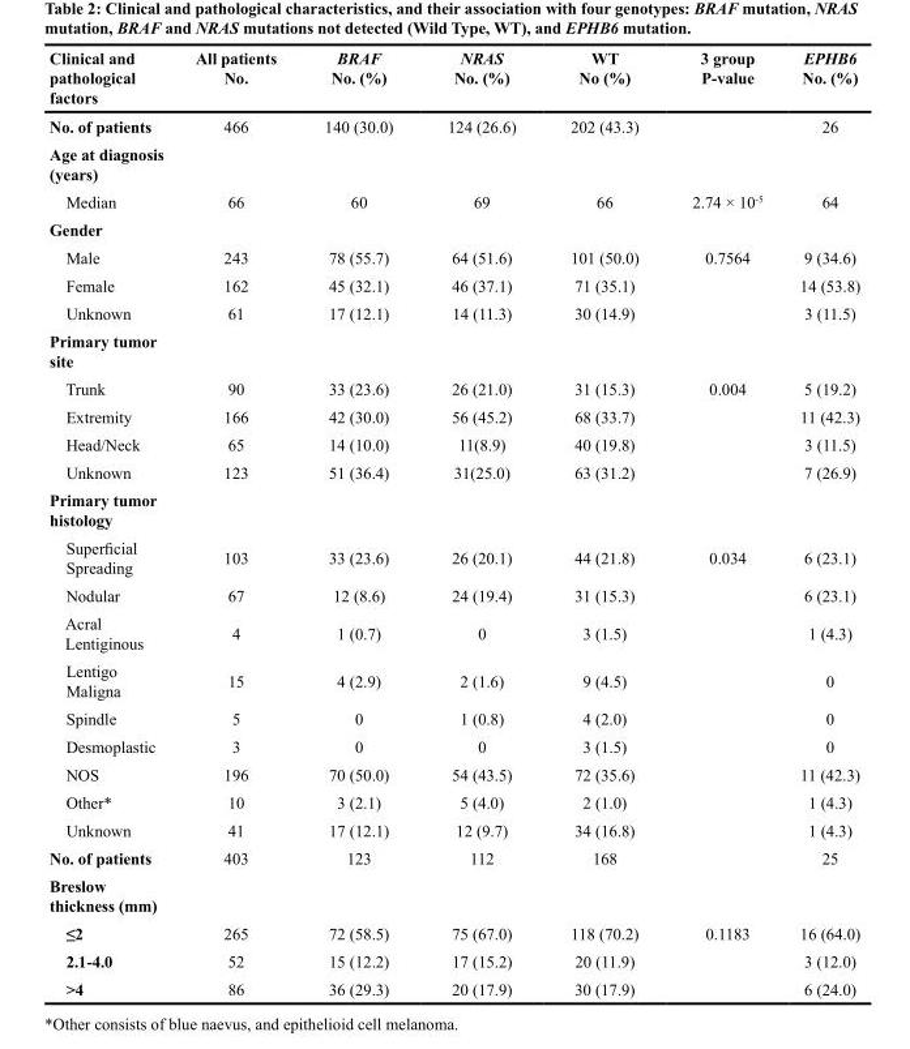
<table><thead><tr><td>Clinical and pathological factors</td><td>All patients No.</td><td>BRAF No. (%)</td><td>NRAS No. (%)</td><td>WT No (%)</td><td>3 group P-value</td><td>EPHB6 No. (%)</td></tr></thead><tbody><tr><td>No. of patients</td><td>466</td><td>140 (30.0)</td><td>124 (26.6)</td><td>202 (43.3)</td><td></td><td>26</td></tr><tr><td colspan="7">Age at diagnosis (years)</td></tr><tr><td>Median</td><td>66</td><td>60</td><td>69</td><td>66</td><td>2.74 × 10<sup>-5</sup></td><td>64</td></tr><tr><td colspan="7">Gender</td></tr><tr><td>Male</td><td>243</td><td>78 (55.7)</td><td>64 (51.6)</td><td>101 (50.0)</td><td>0.7564</td><td>9 (34.6)</td></tr><tr><td>Female</td><td>162</td><td>45 (32.1)</td><td>46 (37.1)</td><td>71 (35.1)</td><td></td><td>14 (53.8)</td></tr><tr><td>Unknown</td><td>61</td><td>17 (12.1)</td><td>14 (11.3)</td><td>30 (14.9)</td><td></td><td>3 (11.5)</td></tr><tr><td colspan="7">Primary tumor site</td></tr><tr><td>Trunk</td><td>90</td><td>33 (23.6)</td><td>26 (21.0)</td><td>31 (15.3)</td><td>0.004</td><td>5 (19.2)</td></tr><tr><td>Extremity</td><td>166</td><td>42 (30.0)</td><td>56 (45.2)</td><td>68 (33.7)</td><td></td><td>11 (42.3)</td></tr><tr><td>Head/Neck</td><td>65</td><td>14 (10.0)</td><td>11(8.9)</td><td>40 (19.8)</td><td></td><td>3 (11.5)</td></tr><tr><td>Unknown</td><td>123</td><td>51 (36.4)</td><td>31(25.0)</td><td>63 (31.2)</td><td></td><td>7 (26.9)</td></tr><tr><td colspan="7">Primary tumor histology</td></tr><tr><td>Superficial Spreading</td><td>103</td><td>33 (23.6)</td><td>26 (20.1)</td><td>44 (21.8)</td><td>0.034</td><td>6 (23.1)</td></tr><tr><td>Nodular</td><td>67</td><td>12 (8.6)</td><td>24 (19.4)</td><td>31 (15.3)</td><td></td><td>6 (23.1)</td></tr><tr><td>Acral Lentiginous</td><td>4</td><td>1 (0.7)</td><td>0</td><td>3 (1.5)</td><td></td><td>1 (4.3)</td></tr><tr><td>Lentigo Maligna</td><td>15</td><td>4 (2.9)</td><td>2 (1.6)</td><td>9 (4.5)</td><td></td><td>0</td></tr><tr><td>Spindle</td><td>5</td><td>0</td><td>1 (0.8)</td><td>4 (2.0)</td><td></td><td>0</td></tr><tr><td>Desmoplastic</td><td>3</td><td>0</td><td>0</td><td>3 (1.5)</td><td></td><td>0</td></tr><tr><td>NOS</td><td>196</td><td>70 (50.0)</td><td>54 (43.5)</td><td>72 (35.6)</td><td></td><td>11 (42.3)</td></tr><tr><td>Other*</td><td>10</td><td>3 (2.1)</td><td>5 (4.0)</td><td>2 (1.0)</td><td></td><td>1 (4.3)</td></tr><tr><td>Unknown</td><td>41</td><td>17 (12.1)</td><td>12 (9.7)</td><td>34 (16.8)</td><td></td><td>1 (4.3)</td></tr><tr><td>No. of patients</td><td>403</td><td>123</td><td>112</td><td>168</td><td></td><td>25</td></tr><tr><td colspan="7">Breslow thickness (mm)</td></tr><tr><td>≤2</td><td>265</td><td>72 (58.5)</td><td>75 (67.0)</td><td>118 (70.2)</td><td>0.1183</td><td>16 (64.0)</td></tr><tr><td>2.1-4.0</td><td>52</td><td>15 (12.2)</td><td>17 (15.2)</td><td>20 (11.9)</td><td></td><td>3 (12.0)</td></tr><tr><td>&gt;4</td><td>86</td><td>36 (29.3)</td><td>20 (17.9)</td><td>30 (17.9)</td><td></td><td>6 (24.0)</td></tr></tbody></table>